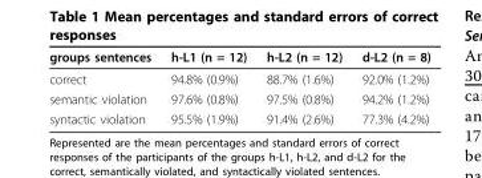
<table><thead><tr><td>groups sentences</td><td>h-L1 (n = 12)</td><td>h-L2 (n = 12)</td><td>d-L2 (n = 8)</td></tr></thead><tbody><tr><td>correct</td><td>94.8% (0.9%)</td><td>88.7% (1.6%)</td><td>92.0% (1.2%)</td></tr><tr><td>semantic violation</td><td>97.6% (0.8%)</td><td>97.5% (0.8%)</td><td>94.2% (1.2%)</td></tr><tr><td>syntactic violation</td><td>95.5% (1.9%)</td><td>91.4% (2.6%)</td><td>77.3% (4.2%)</td></tr></tbody></table>